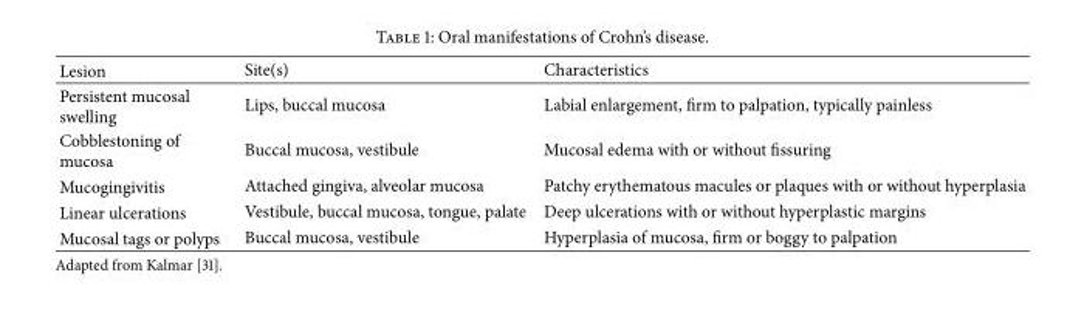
<table><thead><tr><td>Lesion</td><td>Site(s)</td><td>Characteristics</td></tr></thead><tbody><tr><td>Persistent mucosal swelling</td><td>Lips, buccal mucosa</td><td>Labial enlargement, firm to palpation, typically painless</td></tr><tr><td>Cobblestoning of mucosa</td><td>Buccal mucosa, vestibule</td><td>Mucosal edema with or without fissuring</td></tr><tr><td>Mucogingivitis</td><td>Attached gingiva, alveolar mucosa</td><td>Patchy erythematous macules or plaques with or without hyperplasia</td></tr><tr><td>Linear ulcerations</td><td>Vestibule, buccal mucosa, tongue, palate</td><td>Deep ulcerations with or without hyperplastic margins</td></tr><tr><td>Mucosal tags or polyps</td><td>Buccal mucosa, vestibule</td><td>Hyperplasia of mucosa, firm or boggy to palpation</td></tr></tbody></table>